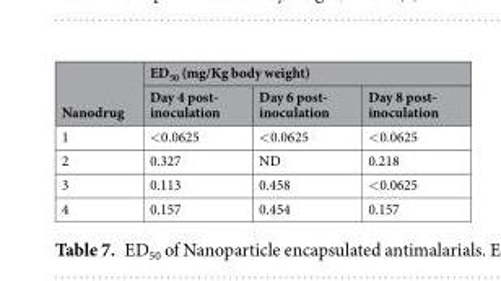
<table><thead><tr><td rowspan="2">Nanodrug</td><td colspan="3">ED<sub>50</sub> (mg/Kg body weight)</td></tr><tr><td>Day 4 post- inoculation</td><td>Day 6 post- inoculation</td><td>Day 8 post- inoculation</td></tr></thead><tbody><tr><td>1</td><td>&lt;0.0625</td><td>&lt;0.0625</td><td>&lt;0.0625</td></tr><tr><td>2</td><td>0.327</td><td>ND</td><td>0.218</td></tr><tr><td>3</td><td>0.113</td><td>0.458</td><td>&lt;0.0625</td></tr><tr><td>4</td><td>0.157</td><td>0.454</td><td>0.157</td></tr></tbody></table>